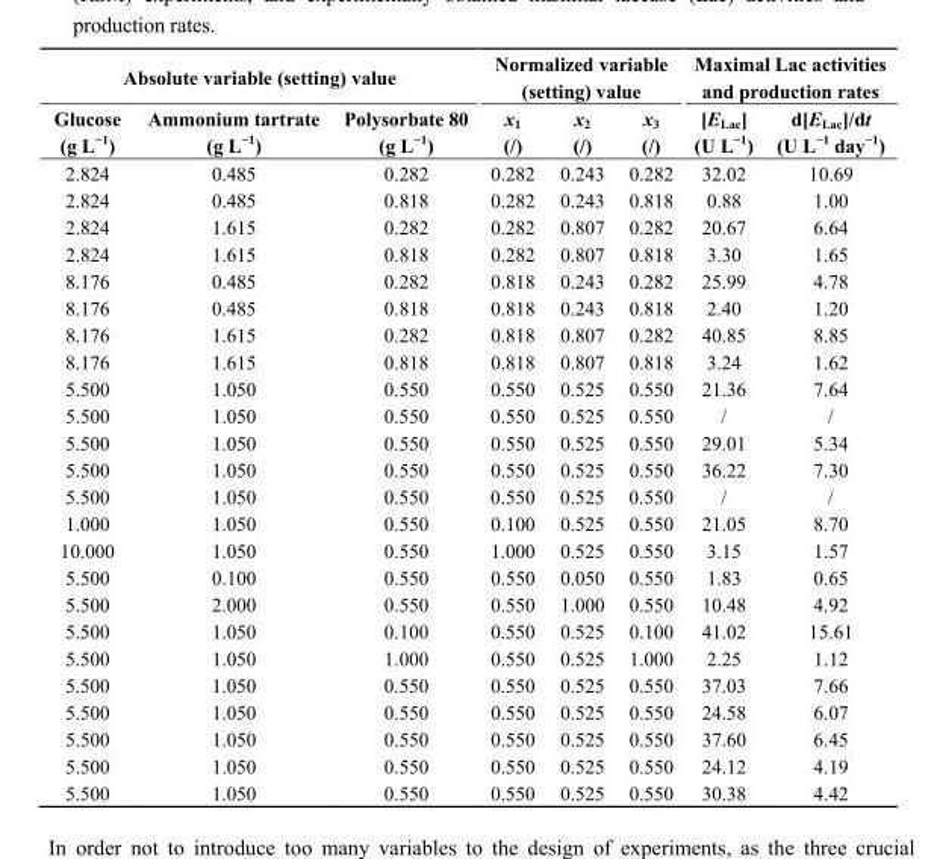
<table><thead><tr><td colspan="3">Absolute variable (setting) value</td><td colspan="3">Normalized variable (setting) value</td><td colspan="2">Maximal Lac activities and production rates</td></tr><tr><td>Glucose (g L<sup>−1</sup>)</td><td>Ammonium tartrate (g L<sup>−1</sup>)</td><td>Polysorbate 80 (g L<sup>−1</sup>)</td><td>x<sub>1</sub> (/)</td><td>x<sub>2</sub> (/)</td><td>x<sub>3</sub> (/)</td><td>[E<sub>Lac</sub>] (U L<sup>−1</sup>)</td><td>d[E<sub>Lac</sub>]/dt (U L<sup>−1</sup> day<sup>−1</sup>)</td></tr></thead><tbody><tr><td>2.824</td><td>0.485</td><td>0.282</td><td>0.282</td><td>0.243</td><td>0.282</td><td>32.02</td><td>10.69</td></tr><tr><td>2.824</td><td>0.485</td><td>0.818</td><td>0.282</td><td>0.243</td><td>0.818</td><td>0.88</td><td>1.00</td></tr><tr><td>2.824</td><td>1.615</td><td>0.282</td><td>0.282</td><td>0.807</td><td>0.282</td><td>20.67</td><td>6.64</td></tr><tr><td>2.824</td><td>1.615</td><td>0.818</td><td>0.282</td><td>0.807</td><td>0.818</td><td>3.30</td><td>1.65</td></tr><tr><td>8.176</td><td>0.485</td><td>0.282</td><td>0.818</td><td>0.243</td><td>0.282</td><td>25.99</td><td>4.78</td></tr><tr><td>8.176</td><td>0.485</td><td>0.818</td><td>0.818</td><td>0.243</td><td>0.818</td><td>2.40</td><td>1.20</td></tr><tr><td>8.176</td><td>1.615</td><td>0.282</td><td>0.818</td><td>0.807</td><td>0.282</td><td>40.85</td><td>8.85</td></tr><tr><td>8.176</td><td>1.615</td><td>0.818</td><td>0.818</td><td>0.807</td><td>0.818</td><td>3.24</td><td>1.62</td></tr><tr><td>5.500</td><td>1.050</td><td>0.550</td><td>0.550</td><td>0.525</td><td>0.550</td><td>21.36</td><td>7.64</td></tr><tr><td>5.500</td><td>1.050</td><td>0.550</td><td>0.550</td><td>0.525</td><td>0.550</td><td>/</td><td>/</td></tr><tr><td>5.500</td><td>1.050</td><td>0.550</td><td>0.550</td><td>0.525</td><td>0.550</td><td>29.01</td><td>5.34</td></tr><tr><td>5.500</td><td>1.050</td><td>0.550</td><td>0.550</td><td>0.525</td><td>0.550</td><td>36.22</td><td>7.30</td></tr><tr><td>5.500</td><td>1.050</td><td>0.550</td><td>0.550</td><td>0.525</td><td>0.550</td><td>/</td><td>/</td></tr><tr><td>1.000</td><td>1.050</td><td>0.550</td><td>0.100</td><td>0.525</td><td>0.550</td><td>21.05</td><td>8.70</td></tr><tr><td>10.000</td><td>1.050</td><td>0.550</td><td>1.000</td><td>0.525</td><td>0.550</td><td>3.15</td><td>1.57</td></tr><tr><td>5.500</td><td>0.100</td><td>0.550</td><td>0.550</td><td>0.050</td><td>0.550</td><td>1.83</td><td>0.65</td></tr><tr><td>5.500</td><td>2.000</td><td>0.550</td><td>0.550</td><td>1.000</td><td>0.550</td><td>10.48</td><td>4.92</td></tr><tr><td>5.500</td><td>1.050</td><td>0.100</td><td>0.550</td><td>0.525</td><td>0.100</td><td>41.02</td><td>15.61</td></tr><tr><td>5.500</td><td>1.050</td><td>1.000</td><td>0.550</td><td>0.525</td><td>1.000</td><td>2.25</td><td>1.12</td></tr><tr><td>5.500</td><td>1.050</td><td>0.550</td><td>0.550</td><td>0.525</td><td>0.550</td><td>37.03</td><td>7.66</td></tr><tr><td>5.500</td><td>1.050</td><td>0.550</td><td>0.550</td><td>0.525</td><td>0.550</td><td>24.58</td><td>6.07</td></tr><tr><td>5.500</td><td>1.050</td><td>0.550</td><td>0.550</td><td>0.525</td><td>0.550</td><td>37.60</td><td>6.45</td></tr><tr><td>5.500</td><td>1.050</td><td>0.550</td><td>0.550</td><td>0.525</td><td>0.550</td><td>24.12</td><td>4.19</td></tr><tr><td>5.500</td><td>1.050</td><td>0.550</td><td>0.550</td><td>0.525</td><td>0.550</td><td>30.38</td><td>4.42</td></tr></tbody></table>